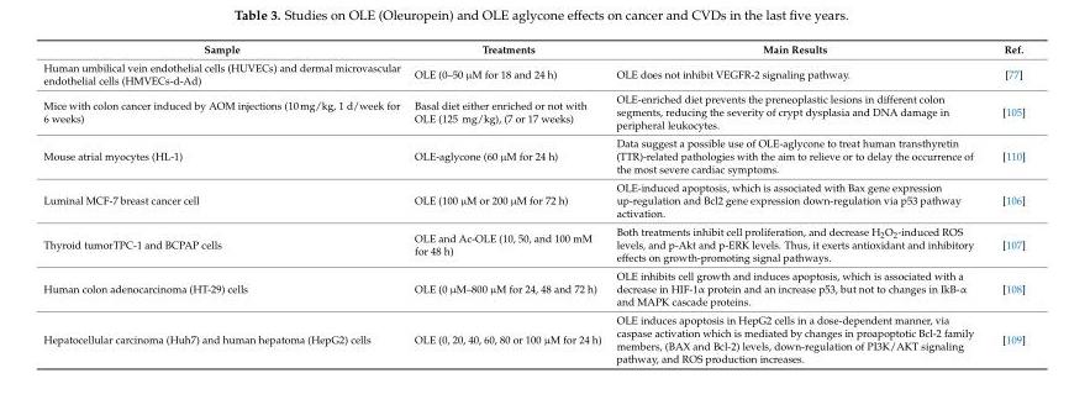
<table><thead><tr><td>Sample</td><td>Treatments</td><td>Main Results</td><td>Ref.</td></tr></thead><tbody><tr><td>Human umbilical vein endothelial cells (HUVECs) and dermal microvascular endothelial cells (HMVECs-d-Ad)</td><td>OLE (0–50 µM for 18 and 24 h)</td><td>OLE does not inhibit VEGFR-2 signaling pathway.</td><td>[77]</td></tr><tr><td>Mice with colon cancer induced by AOM injections (10 mg/kg, 1 d/week for 6 weeks)</td><td>Basal diet either enriched or not with OLE (125 mg/kg), (7 or 17 weeks)</td><td>OLE-enriched diet prevents the preneoplastic lesions in different colon segments, reducing the severity of crypt dysplasia and DNA damage in peripheral leukocytes.</td><td>[105]</td></tr><tr><td>Mouse atrial myocytes (HL-1)</td><td>OLE-aglycone (60 µM for 24 h)</td><td>Data suggest a possible use of OLE-aglycone to treat human transthyretin (TTR)-related pathologies with the aim to relieve or to delay the occurrence of the most severe cardiac symptoms.</td><td>[110]</td></tr><tr><td>Luminal MCF-7 breast cancer cell</td><td>OLE (100 µM or 200 µM for 72 h)</td><td>OLE-induced apoptosis, which is associated with Bax gene expression up-regulation and Bcl2 gene expression down-regulation via p53 pathway activation.</td><td>[106]</td></tr><tr><td>Thyroid tumorTPC-1 and BCPAP cells</td><td>OLE and Ac-OLE (10, 50, and 100 mM for 48 h)</td><td>Both treatments inhibit cell proliferation, and decrease H<sub>2</sub>O<sub>2</sub>-induced ROS levels, and p-Akt and p-ERK levels. Thus, it exerts antioxidant and inhibitory effects on growth-promoting signal pathways.</td><td>[107]</td></tr><tr><td>Human colon adenocarcinoma (HT-29) cells</td><td>OLE (0 µM–800 µM for 24, 48 and 72 h)</td><td>OLE inhibits cell growth and induces apoptosis, which is associated with a decrease in HIF-1α protein and an increase p53, but not to changes in IkB-α and MAPK cascade proteins.</td><td>[108]</td></tr><tr><td>Hepatocellular carcinoma (Huh7) and human hepatoma (HepG2) cells</td><td>OLE (0, 20, 40, 60, 80 or 100 µM for 24 h)</td><td>OLE induces apoptosis in HepG2 cells in a dose-dependent manner, via caspase activation which is mediated by changes in proapoptotic Bcl-2 family members, (BAX and Bcl-2) levels, down-regulation of PI3K/AKT signaling pathway, and ROS production increases.</td><td>[109]</td></tr></tbody></table>